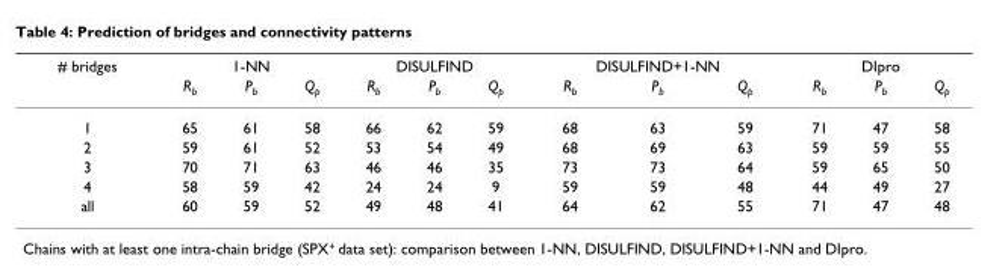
<table><thead><tr><td rowspan="2"># bridges</td><td colspan="3">1-NN</td><td colspan="3">DISULFIND</td><td colspan="3">DISULFIND+1-NN</td><td colspan="3">DIpro</td></tr><tr><td>R<sub>b</sub></td><td>P<sub>b</sub></td><td>Q<sub>p</sub></td><td>R<sub>b</sub></td><td>P<sub>b</sub></td><td>Q<sub>p</sub></td><td>R<sub>b</sub></td><td>P<sub>b</sub></td><td>Q<sub>p</sub></td><td>R<sub>b</sub></td><td>P<sub>b</sub></td><td>Q<sub>p</sub></td></tr></thead><tbody><tr><td>1</td><td>65</td><td>61</td><td>58</td><td>66</td><td>62</td><td>59</td><td>68</td><td>63</td><td>59</td><td>71</td><td>47</td><td>58</td></tr><tr><td>2</td><td>59</td><td>61</td><td>52</td><td>53</td><td>54</td><td>49</td><td>68</td><td>69</td><td>63</td><td>59</td><td>59</td><td>55</td></tr><tr><td>3</td><td>70</td><td>71</td><td>63</td><td>46</td><td>46</td><td>35</td><td>73</td><td>73</td><td>64</td><td>59</td><td>65</td><td>50</td></tr><tr><td>4</td><td>58</td><td>59</td><td>42</td><td>24</td><td>24</td><td>9</td><td>59</td><td>59</td><td>48</td><td>44</td><td>49</td><td>27</td></tr><tr><td>all</td><td>60</td><td>59</td><td>52</td><td>49</td><td>48</td><td>41</td><td>64</td><td>62</td><td>55</td><td>71</td><td>47</td><td>48</td></tr></tbody></table>